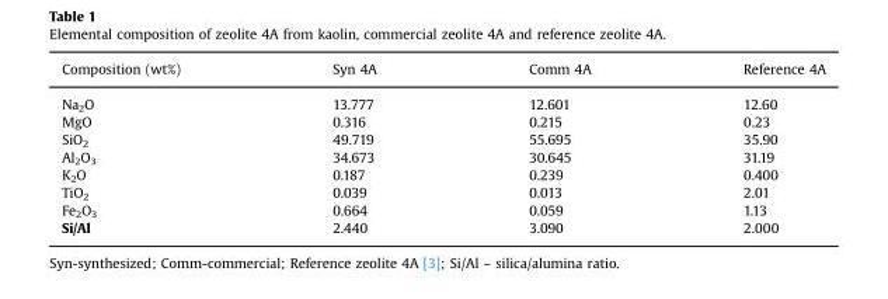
<table><thead><tr><td>Composition (wt%)</td><td>Syn 4A</td><td>Comm 4A</td><td>Reference 4A</td></tr></thead><tbody><tr><td>Na<sub>2</sub>O</td><td>13.777</td><td>12.601</td><td>12.60</td></tr><tr><td>MgO</td><td>0.316</td><td>0.215</td><td>0.23</td></tr><tr><td>SiO<sub>2</sub></td><td>49.719</td><td>55.695</td><td>35.90</td></tr><tr><td>Al<sub>2</sub>O<sub>3</sub></td><td>34.673</td><td>30.645</td><td>31.19</td></tr><tr><td>K<sub>2</sub>O</td><td>0.187</td><td>0.239</td><td>0.400</td></tr><tr><td>TiO<sub>2</sub></td><td>0.039</td><td>0.013</td><td>2.01</td></tr><tr><td>Fe<sub>2</sub>O<sub>3</sub></td><td>0.664</td><td>0.059</td><td>1.13</td></tr><tr><td>Si/Al</td><td>2.440</td><td>3.090</td><td>2.000</td></tr></tbody></table>